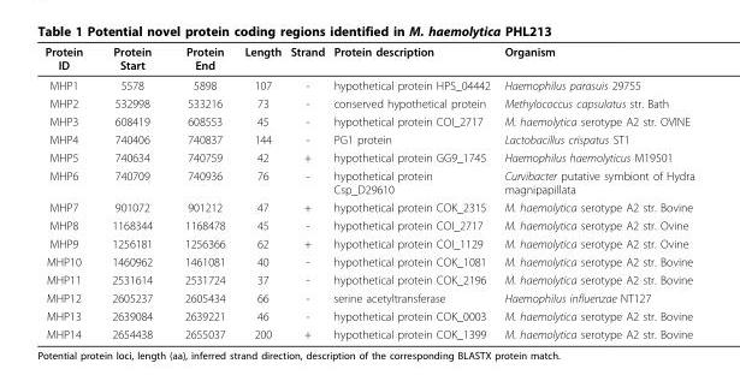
<table><thead><tr><td>Protein ID</td><td>Protein Start</td><td>Protein End</td><td>Length</td><td>Strand</td><td>Protein description</td><td>Organism</td></tr></thead><tbody><tr><td>MHP1</td><td>5578</td><td>5898</td><td>107</td><td>-</td><td>hypothetical protein HPS_04442</td><td>Haemophilus parasuis 29755</td></tr><tr><td>MHP2</td><td>532998</td><td>533216</td><td>73</td><td>-</td><td>conserved hypothetical protein</td><td>Methylococcus capsulatus str. Bath</td></tr><tr><td>MHP3</td><td>608419</td><td>608553</td><td>45</td><td>-</td><td>hypothetical protein COI_2717</td><td>M. haemolytica serotype A2 str. OVINE</td></tr><tr><td>MHP4</td><td>740406</td><td>740837</td><td>144</td><td>-</td><td>PG1 protein</td><td>Lactobacillus crispatus ST1</td></tr><tr><td>MHP5</td><td>740634</td><td>740759</td><td>42</td><td>+</td><td>hypothetical protein GG9_1745</td><td>Haemophilus haemolyticus M19501</td></tr><tr><td>MHP6</td><td>740709</td><td>740936</td><td>76</td><td>-</td><td>hypothetical protein Csp_D29610</td><td>Curvibacter putative symbiont of Hydra magnipapillata</td></tr><tr><td>MHP7</td><td>901072</td><td>901212</td><td>47</td><td>+</td><td>hypothetical protein COK_2315</td><td>M. haemolytica serotype A2 str. Bovine</td></tr><tr><td>MHP8</td><td>1168344</td><td>1168478</td><td>45</td><td>-</td><td>hypothetical protein COI_2717</td><td>M. haemolytica serotype A2 str. Ovine</td></tr><tr><td>MHP9</td><td>1256181</td><td>1256366</td><td>62</td><td>+</td><td>hypothetical protein COI_1129</td><td>M. haemolytica serotype A2 str. Ovine</td></tr><tr><td>MHP10</td><td>1460962</td><td>1461081</td><td>40</td><td>-</td><td>hypothetical protein COK_1081</td><td>M. haemolytica serotype A2 str. Bovine</td></tr><tr><td>MHP11</td><td>2531614</td><td>2531724</td><td>37</td><td>-</td><td>hypothetical protein COK_2196</td><td>M. haemolytica serotype A2 str. Bovine</td></tr><tr><td>MHP12</td><td>2605237</td><td>2605434</td><td>66</td><td>-</td><td>serine acetyltransferase</td><td>Haemophilus influenzae NT127</td></tr><tr><td>MHP13</td><td>2639084</td><td>2639221</td><td>46</td><td>-</td><td>hypothetical protein COK_0003</td><td>M. haemolytica serotype A2 str. Bovine</td></tr><tr><td>MHP14</td><td>2654438</td><td>2655037</td><td>200</td><td>+</td><td>hypothetical protein COK_1399</td><td>M. haemolytica serotype A2 str. Bovine</td></tr></tbody></table>